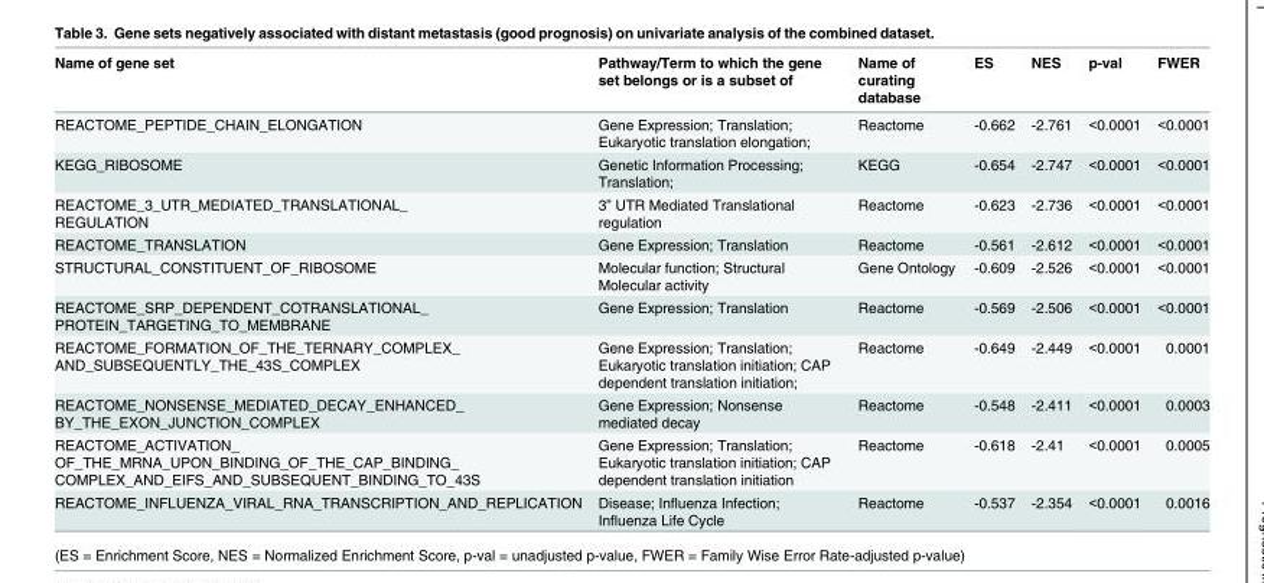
<table><thead><tr><td>Name of gene set</td><td>Pathway/Term to which the gene set belongs or is a subset of</td><td>Name of curating database</td><td>ES</td><td>NES</td><td>p-val</td><td>FWER</td></tr></thead><tbody><tr><td>REACTOME_PEPTIDE_CHAIN_ELONGATION</td><td>Gene Expression; Translation; Eukaryotic translation elongation;</td><td>Reactome</td><td>-0.662</td><td>-2.761</td><td>&lt;0.0001</td><td>&lt;0.0001</td></tr><tr><td>KEGG_RIBOSOME</td><td>Genetic Information Processing; Translation;</td><td>KEGG</td><td>-0.654</td><td>-2.747</td><td>&lt;0.0001</td><td>&lt;0.0001</td></tr><tr><td>REACTOME_3_UTR_MEDIATED_TRANSLATIONAL_ REGULATION</td><td>3” UTR Mediated Translational regulation</td><td>Reactome</td><td>-0.623</td><td>-2.736</td><td>&lt;0.0001</td><td>&lt;0.0001</td></tr><tr><td>REACTOME_TRANSLATION</td><td>Gene Expression; Translation</td><td>Reactome</td><td>-0.561</td><td>-2.612</td><td>&lt;0.0001</td><td>&lt;0.0001</td></tr><tr><td>STRUCTURAL_CONSTITUENT_OF_RIBOSOME</td><td>Molecular function; Structural Molecular activity</td><td>Gene Ontology</td><td>-0.609</td><td>-2.526</td><td>&lt;0.0001</td><td>&lt;0.0001</td></tr><tr><td>REACTOME_SRP_DEPENDENT_COTRANSLATIONAL_ PROTEIN_TARGETING_TO_MEMBRANE</td><td>Gene Expression; Translation</td><td>Reactome</td><td>-0.569</td><td>-2.506</td><td>&lt;0.0001</td><td>&lt;0.0001</td></tr><tr><td>REACTOME_FORMATION_OF_THE_TERNARY_COMPLEX_ AND_SUBSEQUENTLY_THE_43S_COMPLEX</td><td>Gene Expression; Translation; Eukaryotic translation initiation; CAP dependent translation initiation;</td><td>Reactome</td><td>-0.649</td><td>-2.449</td><td>&lt;0.0001</td><td>0.0001</td></tr><tr><td>REACTOME_NONSENSE_MEDIATED_DECAY_ENHANCED_ BY_THE_EXON_JUNCTION_COMPLEX</td><td>Gene Expression; Nonsense mediated decay</td><td>Reactome</td><td>-0.548</td><td>-2.411</td><td>&lt;0.0001</td><td>0.0003</td></tr><tr><td>REACTOME_ACTIVATION_ OF_THE_MRNA_UPON_BINDING_OF_THE_CAP_BINDING_ COMPLEX_AND_EIFS_AND_SUBSEQUENT_BINDING_TO_43S</td><td>Gene Expression; Translation; Eukaryotic translation initiation; CAP dependent translation initiation</td><td>Reactome</td><td>-0.618</td><td>-2.41</td><td>&lt;0.0001</td><td>0.0005</td></tr><tr><td>REACTOME_INFLUENZA_VIRAL_RNA_TRANSCRIPTION_AND_REPLICATION</td><td>Disease; Influenza Infection; Influenza Life Cycle</td><td>Reactome</td><td>-0.537</td><td>-2.354</td><td>&lt;0.0001</td><td>0.0016</td></tr></tbody></table>